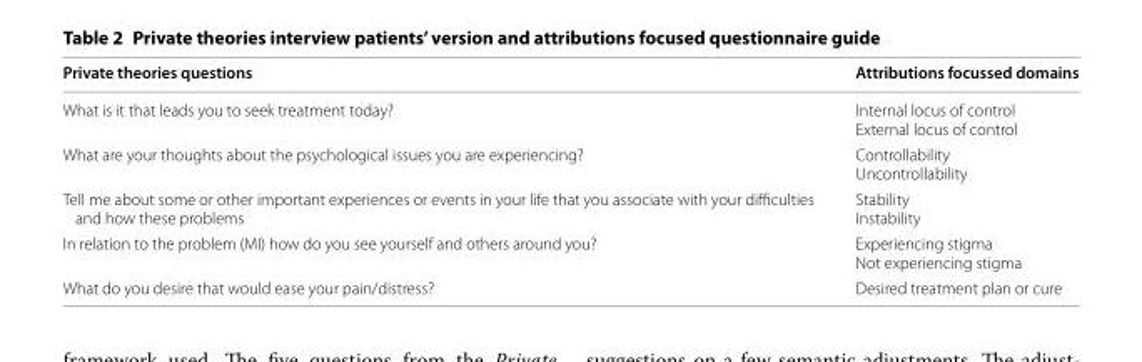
<table><thead><tr><td>Private theories questions</td><td>Attributions focussed domains</td></tr></thead><tbody><tr><td>What is it that leads you to seek treatment today?</td><td>Internal locus of control External locus of control</td></tr><tr><td>What are your thoughts about the psychological issues you are experiencing?</td><td>Controllability Uncontrollability</td></tr><tr><td>Tell me about some or other important experiences or events in your life that you associate with your difficulties and how these problems</td><td>Stability Instability</td></tr><tr><td>In relation to the problem (MI) how do you see yourself and others around you?</td><td>Experiencing stigma Not experiencing stigma</td></tr><tr><td>What do you desire that would ease your pain/distress?</td><td>Desired treatment plan or cure</td></tr></tbody></table>